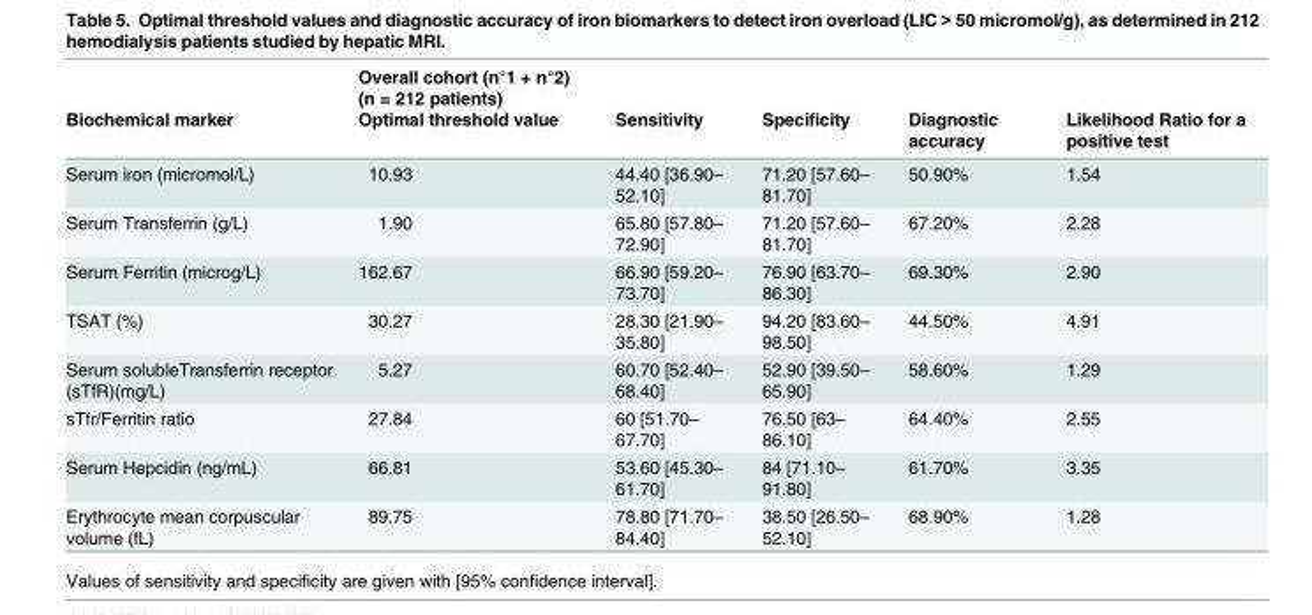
<table><thead><tr><td rowspan="2">Biochemical marker</td><td rowspan="2">Overall cohort (n°1 + n°2) (n = 212 patients) Optimal threshold value</td><td rowspan="2">Sensitivity</td><td rowspan="2">Specificity</td><td rowspan="2">Diagnostic accuracy</td><td rowspan="2">Likelihood Ratio for a positive test</td></tr><tr></tr></thead><tbody><tr><td>Serum iron (micromol/L)</td><td>10.93</td><td>44.40 [36.90– 52.10]</td><td>71.20 [57.60– 81.70]</td><td>50.90%</td><td>1.54</td></tr><tr><td>Serum Transferrin (g/L)</td><td>1.90</td><td>65.80 [57.80– 72.90]</td><td>71.20 [57.60– 81.70]</td><td>67.20%</td><td>2.28</td></tr><tr><td>Serum Ferritin (microg/L)</td><td>162.67</td><td>66.90 [59.20– 73.70]</td><td>76.90 [63.70– 86.30]</td><td>69.30%</td><td>2.90</td></tr><tr><td>TSAT (%)</td><td>30.27</td><td>28.30 [21.90– 35.80]</td><td>94.20 [83.60– 98.50]</td><td>44.50%</td><td>4.91</td></tr><tr><td>Serum solubleTransferrin receptor (sTfR)(mg/L)</td><td>5.27</td><td>60.70 [52.40– 68.40]</td><td>52.90 [39.50– 65.90]</td><td>58.60%</td><td>1.29</td></tr><tr><td>sTfr/Ferritin ratio</td><td>27.84</td><td>60 [51.70– 67.70]</td><td>76.50 [63– 86.10]</td><td>64.40%</td><td>2.55</td></tr><tr><td>Serum Hepcidin (ng/mL)</td><td>66.81</td><td>53.60 [45.30– 61.70]</td><td>84 [71.10– 91.80]</td><td>61.70%</td><td>3.35</td></tr><tr><td>Erythrocyte mean corpuscular volume (fL)</td><td>89.75</td><td>78.80 [71.70– 84.40]</td><td>38.50 [26.50– 52.10]</td><td>68.90%</td><td>1.28</td></tr></tbody></table>